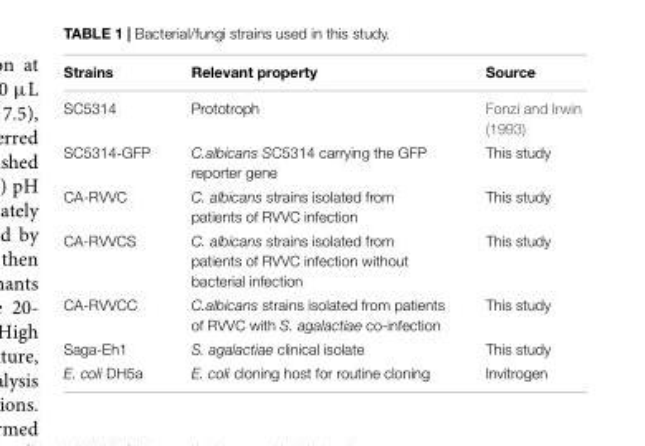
<table><thead><tr><td>Strains</td><td>Relevant property</td><td>Source</td></tr></thead><tbody><tr><td>SC5314</td><td>Prototroph</td><td>Fonzi and Irwin (1993)</td></tr><tr><td>SC5314-GFP</td><td>C.albicans SC5314 carrying the GFP reporter gene</td><td>This study</td></tr><tr><td>CA-RVVC</td><td>C. albicans strains isolated from patients of RVVC infection</td><td>This study</td></tr><tr><td>CA-RVVCS</td><td>C. albicans strains isolated from patients of RVVC infection without bacterial infection</td><td>This study</td></tr><tr><td>CA-RVVCC</td><td>C.albicans strains isolated from patients of RVVC with S. agalactiae co-infection</td><td>This study</td></tr><tr><td>Saga-Eh1</td><td>S. agalactiae clinical isolate</td><td>This study</td></tr><tr><td>E. coli DH5a</td><td>E. coli cloning host for routine cloning</td><td>Invitrogen</td></tr></tbody></table>